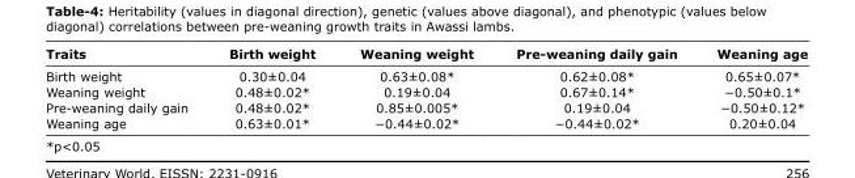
<table><thead><tr><td>Traits</td><td>Birth weight</td><td>Weaning weight</td><td>Pre-weaning daily gain</td><td>Weaning age</td></tr></thead><tbody><tr><td>Birth weight</td><td>0.30±0.04</td><td>0.63±0.08*</td><td>0.62±0.08*</td><td>0.65±0.07*</td></tr><tr><td>Weaning weight</td><td>0.48±0.02*</td><td>0.19±0.04</td><td>0.67±0.14*</td><td>−0.50±0.1*</td></tr><tr><td>Pre-weaning daily gain</td><td>0.48±0.02*</td><td>0.85±0.005*</td><td>0.19±0.04</td><td>−0.50±0.12*</td></tr><tr><td>Weaning age</td><td>0.63±0.01*</td><td>−0.44±0.02*</td><td>−0.44±0.02*</td><td>0.20±0.04</td></tr></tbody></table>